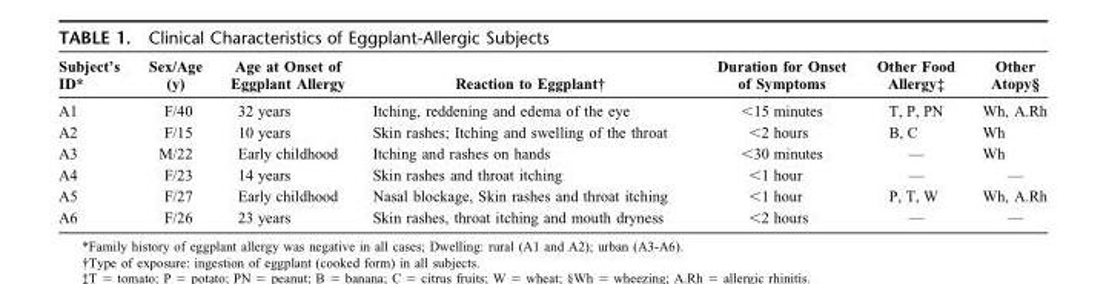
<table><thead><tr><td>Subject’s ID*</td><td>Sex/Age (y)</td><td>Age at Onset of Eggplant Allergy</td><td>Reaction to Eggplant†</td><td>Duration for Onset of Symptoms</td><td>Other Food Allergy‡</td><td>Other Atopy§</td></tr></thead><tbody><tr><td>A1</td><td>F/40</td><td>32 years</td><td>Itching, reddening and edema of the eye</td><td>&lt;15 minutes</td><td>T, P, PN</td><td>Wh, A.Rh</td></tr><tr><td>A2</td><td>F/15</td><td>10 years</td><td>Skin rashes; Itching and swelling of the throat</td><td>&lt;2 hours</td><td>B, C</td><td>Wh</td></tr><tr><td>A3</td><td>M/22</td><td>Early childhood</td><td>Itching and rashes on hands</td><td>&lt;30 minutes</td><td>—</td><td>Wh</td></tr><tr><td>A4</td><td>F/23</td><td>14 years</td><td>Skin rashes and throat itching</td><td>&lt;1 hour</td><td>—</td><td>—</td></tr><tr><td>A5</td><td>F/27</td><td>Early childhood</td><td>Nasal blockage, Skin rashes and throat itching</td><td>&lt;1 hour</td><td>P, T, W</td><td>Wh, A.Rh</td></tr><tr><td>A6</td><td>F/26</td><td>23 years</td><td>Skin rashes, throat itching and mouth dryness</td><td>&lt;2 hours</td><td>—</td><td>—</td></tr></tbody></table>